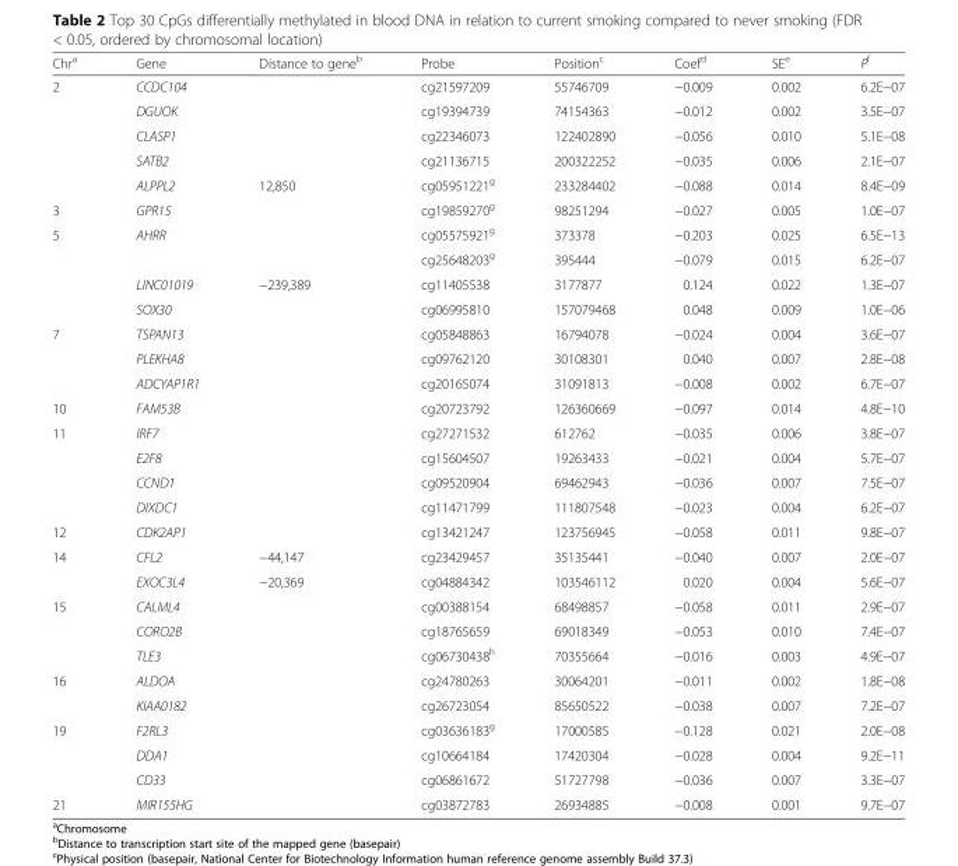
<table><thead><tr><td>Chr<sup>a</sup></td><td>Gene</td><td>Distance to gene<sup>b</sup></td><td>Probe</td><td>Position<sup>c</sup></td><td>Coef<sup>d</sup></td><td>SE<sup>e</sup></td><td>P<sup>f</sup></td></tr></thead><tbody><tr><td rowspan="5">2</td><td>CCDC104</td><td></td><td>cg21597209</td><td>55746709</td><td>−0.009</td><td>0.002</td><td>6.2E−07</td></tr><tr><td>DGUOK</td><td></td><td>cg19394739</td><td>74154363</td><td>−0.012</td><td>0.002</td><td>3.5E−07</td></tr><tr><td>CLASP1</td><td></td><td>cg22346073</td><td>122402890</td><td>−0.056</td><td>0.010</td><td>5.1E−08</td></tr><tr><td>SATB2</td><td></td><td>cg21136715</td><td>200322252</td><td>−0.035</td><td>0.006</td><td>2.1E−07</td></tr><tr><td>ALPPL2</td><td>12,850</td><td>cg05951221<sup>g</sup></td><td>233284402</td><td>−0.088</td><td>0.014</td><td>8.4E−09</td></tr><tr><td>3</td><td>GPR15</td><td></td><td>cg19859270<sup>g</sup></td><td>98251294</td><td>−0.027</td><td>0.005</td><td>1.0E−07</td></tr><tr><td rowspan="4">5</td><td rowspan="2">AHRR</td><td></td><td>cg05575921<sup>g</sup></td><td>373378</td><td>−0.203</td><td>0.025</td><td>6.5E−13</td></tr><tr><td></td><td>cg25648203<sup>g</sup></td><td>395444</td><td>−0.079</td><td>0.015</td><td>6.2E−07</td></tr><tr><td>LINC01019</td><td>−239,389</td><td>cg11405538</td><td>3177877</td><td>0.124</td><td>0.022</td><td>1.3E−07</td></tr><tr><td>SOX30</td><td></td><td>cg06995810</td><td>157079468</td><td>0.048</td><td>0.009</td><td>1.0E−06</td></tr><tr><td rowspan="3">7</td><td>TSPAN13</td><td></td><td>cg05848863</td><td>16794078</td><td>−0.024</td><td>0.004</td><td>3.6E−07</td></tr><tr><td>PLEKHA8</td><td></td><td>cg09762120</td><td>30108301</td><td>0.040</td><td>0.007</td><td>2.8E−08</td></tr><tr><td>ADCYAP1R1</td><td></td><td>cg20165074</td><td>31091813</td><td>−0.008</td><td>0.002</td><td>6.7E−07</td></tr><tr><td>10</td><td>FAM53B</td><td></td><td>cg20723792</td><td>126360669</td><td>−0.097</td><td>0.014</td><td>4.8E−10</td></tr><tr><td rowspan="4">11</td><td>IRF7</td><td></td><td>cg27271532</td><td>612762</td><td>−0.035</td><td>0.006</td><td>3.8E−07</td></tr><tr><td>E2F8</td><td></td><td>cg15604507</td><td>19263433</td><td>−0.021</td><td>0.004</td><td>5.7E−07</td></tr><tr><td>CCND1</td><td></td><td>cg09520904</td><td>69462943</td><td>−0.036</td><td>0.007</td><td>7.5E−07</td></tr><tr><td>DIXDC1</td><td></td><td>cg11471799</td><td>111807548</td><td>−0.023</td><td>0.004</td><td>6.2E−07</td></tr><tr><td>12</td><td>CDK2AP1</td><td></td><td>cg13421247</td><td>123756945</td><td>−0.058</td><td>0.011</td><td>9.8E−07</td></tr><tr><td rowspan="2">14</td><td>CFL2</td><td>−44,147</td><td>cg23429457</td><td>35135441</td><td>−0.040</td><td>0.007</td><td>2.0E−07</td></tr><tr><td>EXOC3L4</td><td>−20,369</td><td>cg04884342</td><td>103546112</td><td>0.020</td><td>0.004</td><td>5.6E−07</td></tr><tr><td rowspan="3">15</td><td>CALML4</td><td></td><td>cg00388154</td><td>68498857</td><td>−0.058</td><td>0.011</td><td>2.9E−07</td></tr><tr><td>CORO2B</td><td></td><td>cg18765659</td><td>69018349</td><td>−0.053</td><td>0.010</td><td>7.4E−07</td></tr><tr><td>TLE3</td><td></td><td>cg06730438<sup>h</sup></td><td>70355664</td><td>−0.016</td><td>0.003</td><td>4.9E−07</td></tr><tr><td rowspan="2">16</td><td>ALDOA</td><td></td><td>cg24780263</td><td>30064201</td><td>−0.011</td><td>0.002</td><td>1.8E−08</td></tr><tr><td>KIAA0182</td><td></td><td>cg26723054</td><td>85650522</td><td>−0.038</td><td>0.007</td><td>7.2E−07</td></tr><tr><td rowspan="3">19</td><td>F2RL3</td><td></td><td>cg03636183<sup>g</sup></td><td>17000585</td><td>−0.128</td><td>0.021</td><td>2.0E−08</td></tr><tr><td>DDA1</td><td></td><td>cg10664184</td><td>17420304</td><td>−0.028</td><td>0.004</td><td>9.2E−11</td></tr><tr><td>CD33</td><td></td><td>cg06861672</td><td>51727798</td><td>−0.036</td><td>0.007</td><td>3.3E−07</td></tr><tr><td>21</td><td>MIR155HG</td><td></td><td>cg03872783</td><td>26934885</td><td>−0.008</td><td>0.001</td><td>9.7E−07</td></tr></tbody></table>